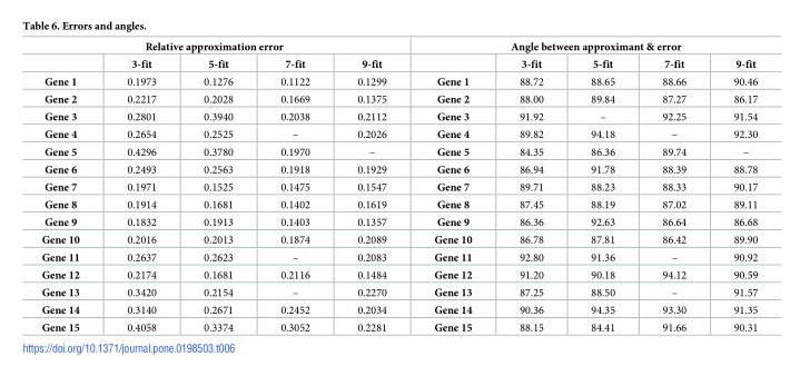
<table><thead><tr><td colspan="5">Relative approximation error</td><td colspan="5">Angle between approximant &amp; error</td></tr><tr><td></td><td>3-fit</td><td>5-fit</td><td>7-fit</td><td>9-fit</td><td></td><td>3-fit</td><td>5-fit</td><td>7-fit</td><td>9-fit</td></tr></thead><tbody><tr><td>Gene 1</td><td>0.1973</td><td>0.1276</td><td>0.1122</td><td>0.1299</td><td>Gene 1</td><td>88.72</td><td>88.65</td><td>88.66</td><td>90.46</td></tr><tr><td>Gene 2</td><td>0.2217</td><td>0.2028</td><td>0.1669</td><td>0.1375</td><td>Gene 2</td><td>88.00</td><td>89.84</td><td>87.27</td><td>86.17</td></tr><tr><td>Gene 3</td><td>0.2801</td><td>0.3940</td><td>0.2038</td><td>0.2112</td><td>Gene 3</td><td>91.92</td><td>–</td><td>92.25</td><td>91.54</td></tr><tr><td>Gene 4</td><td>0.2654</td><td>0.2525</td><td>–</td><td>0.2026</td><td>Gene 4</td><td>89.82</td><td>94.18</td><td>–</td><td>92.30</td></tr><tr><td>Gene 5</td><td>0.4296</td><td>0.3780</td><td>0.1970</td><td>–</td><td>Gene 5</td><td>84.35</td><td>86.36</td><td>89.74</td><td>–</td></tr><tr><td>Gene 6</td><td>0.2493</td><td>0.2563</td><td>0.1918</td><td>0.1929</td><td>Gene 6</td><td>86.94</td><td>91.78</td><td>88.39</td><td>88.78</td></tr><tr><td>Gene 7</td><td>0.1971</td><td>0.1525</td><td>0.1475</td><td>0.1547</td><td>Gene 7</td><td>89.71</td><td>88.23</td><td>88.33</td><td>90.17</td></tr><tr><td>Gene 8</td><td>0.1914</td><td>0.1681</td><td>0.1402</td><td>0.1619</td><td>Gene 8</td><td>87.45</td><td>88.19</td><td>87.02</td><td>89.11</td></tr><tr><td>Gene 9</td><td>0.1832</td><td>0.1913</td><td>0.1403</td><td>0.1357</td><td>Gene 9</td><td>86.36</td><td>92.63</td><td>86.64</td><td>86.68</td></tr><tr><td>Gene 10</td><td>0.2016</td><td>0.2013</td><td>0.1874</td><td>0.2089</td><td>Gene 10</td><td>86.78</td><td>87.81</td><td>86.42</td><td>89.90</td></tr><tr><td>Gene 11</td><td>0.2637</td><td>0.2623</td><td>–</td><td>0.2083</td><td>Gene 11</td><td>92.80</td><td>91.36</td><td>–</td><td>90.92</td></tr><tr><td>Gene 12</td><td>0.2174</td><td>0.1681</td><td>0.2116</td><td>0.1484</td><td>Gene 12</td><td>91.20</td><td>90.18</td><td>94.12</td><td>90.59</td></tr><tr><td>Gene 13</td><td>0.3420</td><td>0.2154</td><td>–</td><td>0.2270</td><td>Gene 13</td><td>87.25</td><td>88.50</td><td>–</td><td>91.57</td></tr><tr><td>Gene 14</td><td>0.3140</td><td>0.2671</td><td>0.2452</td><td>0.2034</td><td>Gene 14</td><td>90.36</td><td>94.35</td><td>93.30</td><td>91.35</td></tr><tr><td>Gene 15</td><td>0.4058</td><td>0.3374</td><td>0.3052</td><td>0.2281</td><td>Gene 15</td><td>88.15</td><td>84.41</td><td>91.66</td><td>90.31</td></tr></tbody></table>